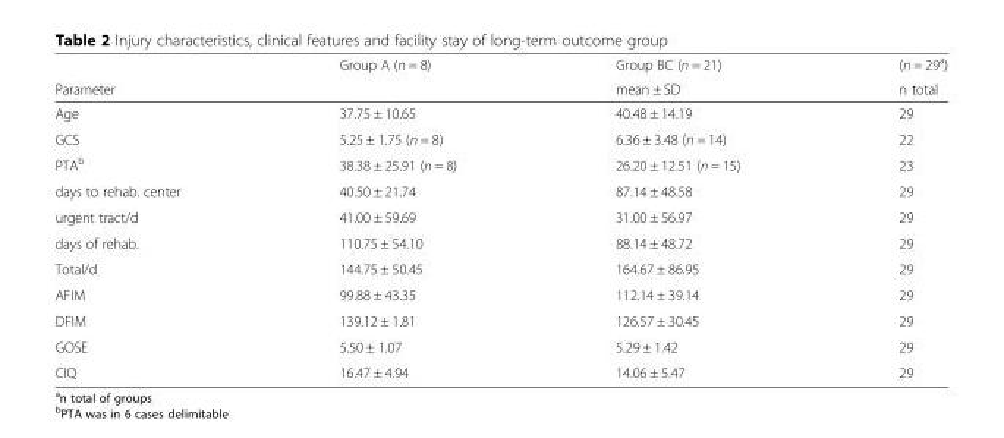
<table><thead><tr><td rowspan="2">Parameter</td><td rowspan="2">Group A (n = 8)</td><td rowspan="2">Group BC (n = 21) mean ± SD</td><td rowspan="2">(n = 29<sup>a</sup>) n total</td></tr><tr></tr></thead><tbody><tr><td>Age</td><td>37.75 ± 10.65</td><td>40.48 ± 14.19</td><td>29</td></tr><tr><td>GCS</td><td>5.25 ± 1.75 (n = 8)</td><td>6.36 ± 3.48 (n = 14)</td><td>22</td></tr><tr><td>PTA<sup>b</sup></td><td>38.38 ± 25.91 (n = 8)</td><td>26.20 ± 12.51 (n = 15)</td><td>23</td></tr><tr><td>days to rehab. center</td><td>40.50 ± 21.74</td><td>87.14 ± 48.58</td><td>29</td></tr><tr><td>urgent tract/d</td><td>41.00 ± 59.69</td><td>31.00 ± 56.97</td><td>29</td></tr><tr><td>days of rehab.</td><td>110.75 ± 54.10</td><td>88.14 ± 48.72</td><td>29</td></tr><tr><td>Total/d</td><td>144.75 ± 50.45</td><td>164.67 ± 86.95</td><td>29</td></tr><tr><td>AFIM</td><td>99.88 ± 43.35</td><td>112.14 ± 39.14</td><td>29</td></tr><tr><td>DFIM</td><td>139.12 ± 1.81</td><td>126.57 ± 30.45</td><td>29</td></tr><tr><td>GOSE</td><td>5.50 ± 1.07</td><td>5.29 ± 1.42</td><td>29</td></tr><tr><td>CIQ</td><td>16.47 ± 4.94</td><td>14.06 ± 5.47</td><td>29</td></tr></tbody></table>